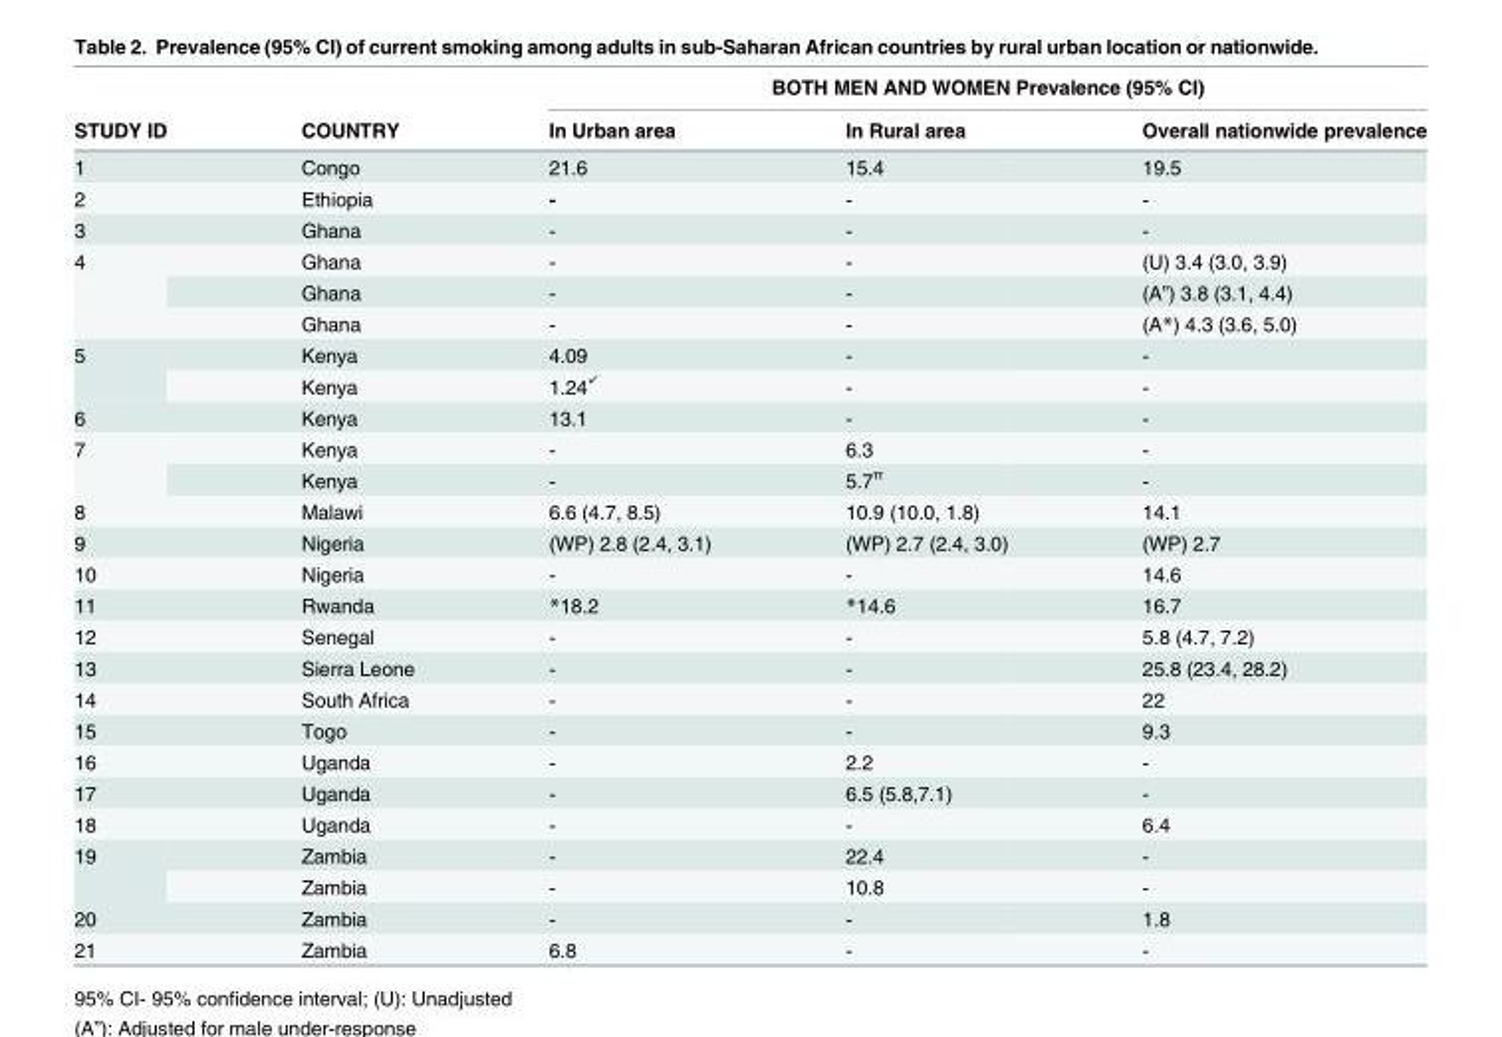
<table><thead><tr><td rowspan="2">STUDY ID</td><td rowspan="2">COUNTRY</td><td colspan="3">BOTH MEN AND WOMEN Prevalence (95% CI)</td></tr><tr><td>In Urban area</td><td>In Rural area</td><td>Overall nationwide prevalence</td></tr></thead><tbody><tr><td>1</td><td>Congo</td><td>21.6</td><td>15.4</td><td>19.5</td></tr><tr><td>2</td><td>Ethiopia</td><td>-</td><td>-</td><td>-</td></tr><tr><td>3</td><td>Ghana</td><td>-</td><td>-</td><td>-</td></tr><tr><td rowspan="3">4</td><td>Ghana</td><td>-</td><td>-</td><td>(U) 3.4 (3.0, 3.9)</td></tr><tr><td>Ghana</td><td>-</td><td>-</td><td>(A”) 3.8 (3.1, 4.4)</td></tr><tr><td>Ghana</td><td>-</td><td>-</td><td>(A*) 4.3 (3.6, 5.0)</td></tr><tr><td rowspan="2">5</td><td>Kenya</td><td>4.09</td><td>-</td><td>-</td></tr><tr><td>Kenya</td><td>1.24<sup>✓</sup></td><td>-</td><td>-</td></tr><tr><td>6</td><td>Kenya</td><td>13.1</td><td>-</td><td>-</td></tr><tr><td rowspan="2">7</td><td>Kenya</td><td>-</td><td>6.3</td><td>-</td></tr><tr><td>Kenya</td><td>-</td><td>5.7<sup>π</sup></td><td>-</td></tr><tr><td>8</td><td>Malawi</td><td>6.6 (4.7, 8.5)</td><td>10.9 (10.0, 1.8)</td><td>14.1</td></tr><tr><td>9</td><td>Nigeria</td><td>(WP) 2.8 (2.4, 3.1)</td><td>(WP) 2.7 (2.4, 3.0)</td><td>(WP) 2.7</td></tr><tr><td>10</td><td>Nigeria</td><td>-</td><td>-</td><td>14.6</td></tr><tr><td>11</td><td>Rwanda</td><td>*18.2</td><td>*14.6</td><td>16.7</td></tr><tr><td>12</td><td>Senegal</td><td>-</td><td>-</td><td>5.8 (4.7, 7.2)</td></tr><tr><td>13</td><td>Sierra Leone</td><td>-</td><td>-</td><td>25.8 (23.4, 28.2)</td></tr><tr><td>14</td><td>South Africa</td><td>-</td><td>-</td><td>22</td></tr><tr><td>15</td><td>Togo</td><td>-</td><td>-</td><td>9.3</td></tr><tr><td>16</td><td>Uganda</td><td>-</td><td>2.2</td><td>-</td></tr><tr><td>17</td><td>Uganda</td><td>-</td><td>6.5 (5.8,7.1)</td><td>-</td></tr><tr><td>18</td><td>Uganda</td><td>-</td><td>-</td><td>6.4</td></tr><tr><td rowspan="2">19</td><td>Zambia</td><td>-</td><td>22.4</td><td>-</td></tr><tr><td>Zambia</td><td>-</td><td>10.8</td><td>-</td></tr><tr><td>20</td><td>Zambia</td><td>-</td><td>-</td><td>1.8</td></tr><tr><td>21</td><td>Zambia</td><td>6.8</td><td>-</td><td>-</td></tr></tbody></table>